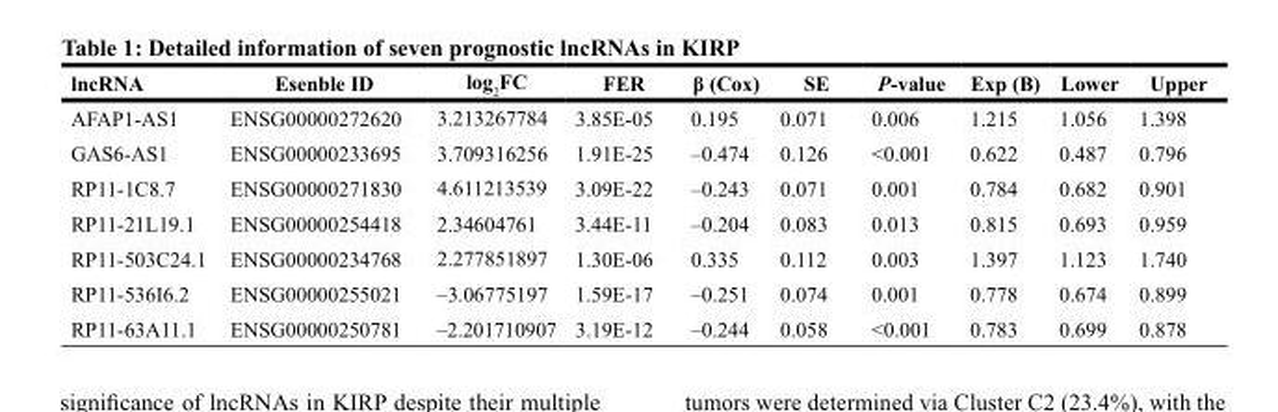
<table><thead><tr><td>lncRNA</td><td>Esenble ID</td><td>log<sub>2</sub>FC</td><td>FER</td><td>β (Cox)</td><td>SE</td><td>P-value</td><td>Exp (B)</td><td>Lower</td><td>Upper</td></tr></thead><tbody><tr><td>AFAP1-AS1</td><td>ENSG00000272620</td><td>3.213267784</td><td>3.85E-05</td><td>0.195</td><td>0.071</td><td>0.006</td><td>1.215</td><td>1.056</td><td>1.398</td></tr><tr><td>GAS6-AS1</td><td>ENSG00000233695</td><td>3.709316256</td><td>1.91E-25</td><td>–0.474</td><td>0.126</td><td>&lt;0.001</td><td>0.622</td><td>0.487</td><td>0.796</td></tr><tr><td>RP11-1C8.7</td><td>ENSG00000271830</td><td>4.611213539</td><td>3.09E-22</td><td>–0.243</td><td>0.071</td><td>0.001</td><td>0.784</td><td>0.682</td><td>0.901</td></tr><tr><td>RP11-21L19.1</td><td>ENSG00000254418</td><td>2.34604761</td><td>3.44E-11</td><td>–0.204</td><td>0.083</td><td>0.013</td><td>0.815</td><td>0.693</td><td>0.959</td></tr><tr><td>RP11-503C24.1</td><td>ENSG00000234768</td><td>2.277851897</td><td>1.30E-06</td><td>0.335</td><td>0.112</td><td>0.003</td><td>1.397</td><td>1.123</td><td>1.740</td></tr><tr><td>RP11-536I6.2</td><td>ENSG00000255021</td><td>–3.06775197</td><td>1.59E-17</td><td>–0.251</td><td>0.074</td><td>0.001</td><td>0.778</td><td>0.674</td><td>0.899</td></tr><tr><td>RP11-63A11.1</td><td>ENSG00000250781</td><td>–2.201710907</td><td>3.19E-12</td><td>–0.244</td><td>0.058</td><td>&lt;0.001</td><td>0.783</td><td>0.699</td><td>0.878</td></tr></tbody></table>